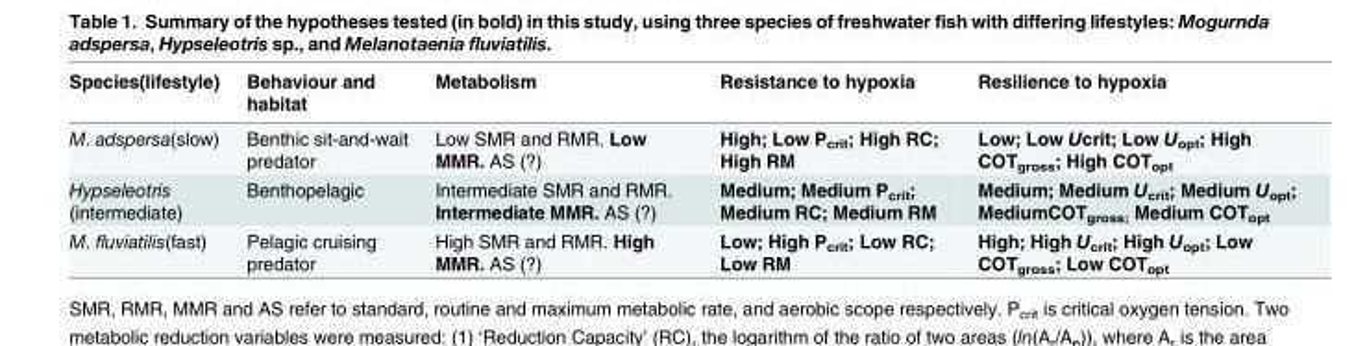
<table><thead><tr><td>Species(lifestyle)</td><td>Behaviour and habitat</td><td>Metabolism</td><td>Resistance to hypoxia</td><td>Resilience to hypoxia</td></tr></thead><tbody><tr><td>M. adspersa(slow)</td><td>Benthic sit-and-wait predator</td><td>Low SMR and RMR. Low MMR. AS (?)</td><td>High; Low P<sub>crit</sub>; High RC; High RM</td><td>Low; Low Ucrit; Low U<sub>opt</sub>; High COT<sub>gross</sub>; High COT<sub>opt</sub></td></tr><tr><td>Hypseleotris (intermediate)</td><td>Benthopelagic</td><td>Intermediate SMR and RMR. Intermediate MMR. AS (?)</td><td>Medium; Medium P<sub>crit</sub>; Medium RC; Medium RM</td><td>Medium; Medium U<sub>crit</sub>; Medium U<sub>opt</sub>; MediumCOT<sub>gross;</sub> Medium COT<sub>opt</sub></td></tr><tr><td>M. fluviatilis(fast)</td><td>Pelagic cruising predator</td><td>High SMR and RMR. High MMR. AS (?)</td><td>Low; High P<sub>crit</sub>; Low RC; Low RM</td><td>High; High U<sub>crit</sub>; High U<sub>opt</sub>; Low COT<sub>gross</sub>; Low COT<sub>opt</sub></td></tr></tbody></table>